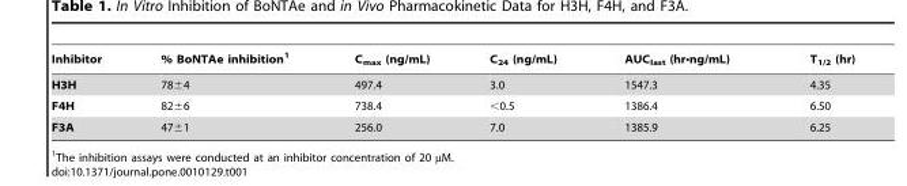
<table><thead><tr><td>Inhibitor</td><td>% BoNTAe inhibition<sup>1</sup></td><td>C<sub>max</sub> (ng/mL)</td><td>C<sub>24</sub> (ng/mL)</td><td>AUC<sub>last</sub> (hr•ng/mL)</td><td>T<sub>1/2</sub> (hr)</td></tr></thead><tbody><tr><td>H3H</td><td>78±4</td><td>497.4</td><td>3.0</td><td>1547.3</td><td>4.35</td></tr><tr><td>F4H</td><td>82±6</td><td>738.4</td><td>&lt;0.5</td><td>1386.4</td><td>6.50</td></tr><tr><td>F3A</td><td>47±1</td><td>256.0</td><td>7.0</td><td>1385.9</td><td>6.25</td></tr></tbody></table>